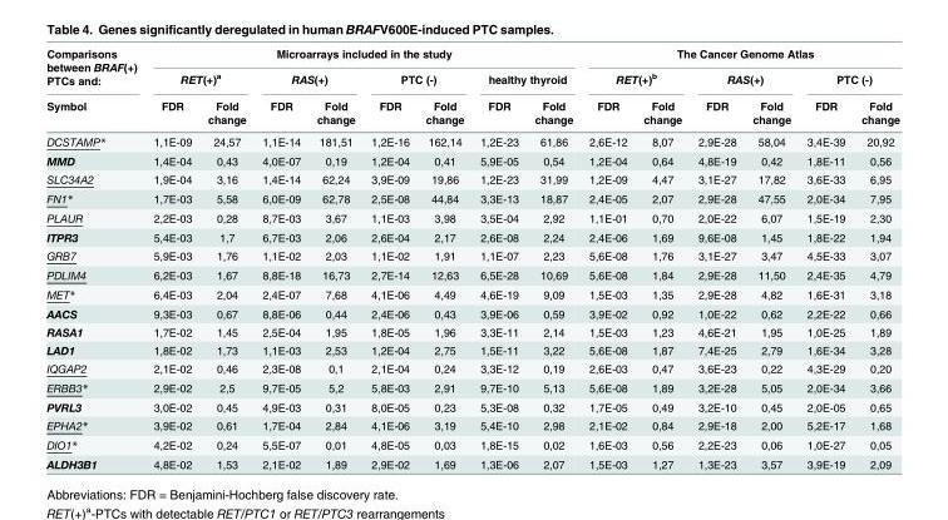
<table><thead><tr><td rowspan="3">Comparisons between BRAF(+) PTCs and: Symbol</td><td colspan="8">Microarrays included in the study</td><td colspan="6">The Cancer Genome Atlas</td></tr><tr><td colspan="2">RET(+)<sup>a</sup></td><td colspan="2">RAS(+)</td><td colspan="2">PTC (-)</td><td colspan="2">healthy thyroid</td><td colspan="2">RET(+)<sup>b</sup></td><td colspan="2">RAS(+)</td><td colspan="2">PTC (-)</td></tr><tr><td>FDR</td><td>Fold change</td><td>FDR</td><td>Fold change</td><td>FDR</td><td>Fold change</td><td>FDR</td><td>Fold change</td><td>FDR</td><td>Fold change</td><td>FDR</td><td>Fold change</td><td>FDR</td><td>Fold change</td></tr></thead><tbody><tr><td>DCSTAMP*</td><td>1,1E-09</td><td>24,57</td><td>1,1E-14</td><td>181,51</td><td>1,2E-16</td><td>162,14</td><td>1,2E-23</td><td>61,86</td><td>2,6E-12</td><td>8,07</td><td>2,9E-28</td><td>58,04</td><td>3,4E-39</td><td>20,92</td></tr><tr><td>MMD</td><td>1,4E-04</td><td>0,43</td><td>4,0E-07</td><td>0,19</td><td>1,2E-04</td><td>0,41</td><td>5,9E-05</td><td>0,54</td><td>1,2E-04</td><td>0,64</td><td>4,8E-19</td><td>0,42</td><td>1,8E-11</td><td>0,56</td></tr><tr><td>SLC34A2</td><td>1,9E-04</td><td>3,16</td><td>1,4E-14</td><td>62,24</td><td>3,9E-09</td><td>19,86</td><td>1,2E-23</td><td>31,99</td><td>1,2E-09</td><td>4,47</td><td>3,1E-27</td><td>17,82</td><td>3,6E-33</td><td>6,95</td></tr><tr><td>FN1*</td><td>1,7E-03</td><td>5,58</td><td>6,0E-09</td><td>62,78</td><td>2,5E-08</td><td>44,84</td><td>3,3E-13</td><td>18,87</td><td>2,4E-05</td><td>2,07</td><td>2,9E-28</td><td>47,55</td><td>2,0E-34</td><td>7,95</td></tr><tr><td>PLAUR</td><td>2,2E-03</td><td>0,28</td><td>8,7E-03</td><td>3,67</td><td>1,1E-03</td><td>3,98</td><td>3,5E-04</td><td>2,92</td><td>1,1E-01</td><td>0,70</td><td>2,0E-22</td><td>6,07</td><td>1,5E-19</td><td>2,30</td></tr><tr><td>ITPR3</td><td>5,4E-03</td><td>1,7</td><td>6,7E-03</td><td>2,06</td><td>2,6E-04</td><td>2,17</td><td>2,6E-08</td><td>2,24</td><td>2,4E-06</td><td>1,69</td><td>9,6E-08</td><td>1,45</td><td>1,8E-22</td><td>1,94</td></tr><tr><td>GRB7</td><td>5,9E-03</td><td>1,76</td><td>1,1E-02</td><td>2,03</td><td>1,1E-02</td><td>1,91</td><td>1,1E-07</td><td>2,23</td><td>5,6E-08</td><td>1,76</td><td>3,1E-27</td><td>3,47</td><td>4,5E-33</td><td>3,07</td></tr><tr><td>PDLIM4</td><td>6,2E-03</td><td>1,67</td><td>8,8E-18</td><td>16,73</td><td>2,7E-14</td><td>12,63</td><td>6,5E-28</td><td>10,69</td><td>5,6E-08</td><td>1,84</td><td>2,9E-28</td><td>11,50</td><td>2,4E-35</td><td>4,79</td></tr><tr><td>MET*</td><td>6,4E-03</td><td>2,04</td><td>2,4E-07</td><td>7,68</td><td>4,1E-06</td><td>4,49</td><td>4,6E-19</td><td>9,09</td><td>1,5E-03</td><td>1,35</td><td>2,9E-28</td><td>4,82</td><td>1,6E-31</td><td>3,18</td></tr><tr><td>AACS</td><td>9,3E-03</td><td>0,67</td><td>8,8E-06</td><td>0,44</td><td>2,4E-06</td><td>0,43</td><td>3,9E-06</td><td>0,59</td><td>3,9E-02</td><td>0,92</td><td>1,0E-22</td><td>0,62</td><td>2,2E-22</td><td>0,66</td></tr><tr><td>RASA1</td><td>1,7E-02</td><td>1,45</td><td>2,5E-04</td><td>1,95</td><td>1,8E-05</td><td>1,96</td><td>3,3E-11</td><td>2,14</td><td>1,5E-03</td><td>1,23</td><td>4,6E-21</td><td>1,95</td><td>1,0E-25</td><td>1,89</td></tr><tr><td>LAD1</td><td>1,8E-02</td><td>1,73</td><td>1,1E-03</td><td>2,53</td><td>1,2E-04</td><td>2,75</td><td>1,5E-11</td><td>3,22</td><td>5,6E-08</td><td>1,87</td><td>7,4E-25</td><td>2,79</td><td>1,6E-34</td><td>3,28</td></tr><tr><td>IQGAP2</td><td>2,1E-02</td><td>0,46</td><td>2,3E-08</td><td>0,1</td><td>2,1E-04</td><td>0,24</td><td>3,3E-12</td><td>0,19</td><td>2,6E-03</td><td>0,47</td><td>3,6E-23</td><td>0,22</td><td>4,3E-29</td><td>0,20</td></tr><tr><td>ERBB3*</td><td>2,9E-02</td><td>2,5</td><td>9,7E-05</td><td>5,2</td><td>5,8E-03</td><td>2,91</td><td>9,7E-10</td><td>5,13</td><td>5,6E-08</td><td>1,89</td><td>3,2E-28</td><td>5,05</td><td>2,0E-34</td><td>3,66</td></tr><tr><td>PVRL3</td><td>3,0E-02</td><td>0,45</td><td>4,9E-03</td><td>0,31</td><td>8,0E-05</td><td>0,23</td><td>5,3E-08</td><td>0,32</td><td>1,7E-05</td><td>0,49</td><td>3,2E-10</td><td>0,45</td><td>2,0E-05</td><td>0,65</td></tr><tr><td>EPHA2*</td><td>3,9E-02</td><td>0,61</td><td>1,7E-04</td><td>2,84</td><td>4,1E-06</td><td>3,19</td><td>5,4E-10</td><td>2,98</td><td>2,1E-02</td><td>0,84</td><td>2,9E-18</td><td>2,00</td><td>5,2E-17</td><td>1,68</td></tr><tr><td>DIO1*</td><td>4,2E-02</td><td>0,24</td><td>5,5E-07</td><td>0,01</td><td>4,8E-05</td><td>0,03</td><td>1,8E-15</td><td>0,02</td><td>1,6E-03</td><td>0,56</td><td>2,2E-23</td><td>0,06</td><td>1,0E-27</td><td>0,05</td></tr><tr><td>ALDH3B1</td><td>4,8E-02</td><td>1,53</td><td>2,1E-02</td><td>1,89</td><td>2,9E-02</td><td>1,69</td><td>1,3E-06</td><td>2,07</td><td>1,5E-03</td><td>1,27</td><td>1,3E-23</td><td>3,57</td><td>3,9E-19</td><td>2,09</td></tr></tbody></table>